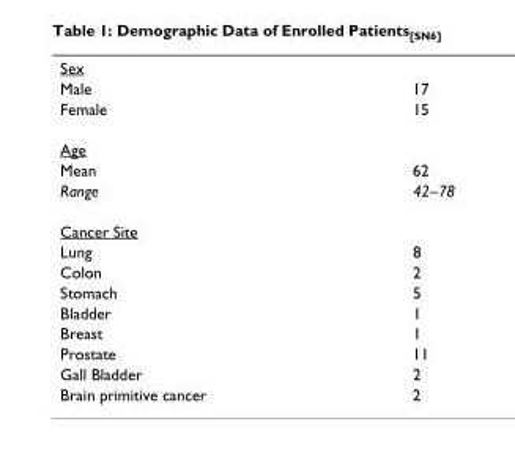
<table><tbody><tr><td colspan="2">Sex</td></tr><tr><td>Male</td><td>17</td></tr><tr><td>Female</td><td>15</td></tr><tr><td colspan="2">Age</td></tr><tr><td>Mean</td><td>62</td></tr><tr><td>Range</td><td>42–78</td></tr><tr><td colspan="2">Cancer Site</td></tr><tr><td>Lung</td><td>8</td></tr><tr><td>Colon</td><td>2</td></tr><tr><td>Stomach</td><td>5</td></tr><tr><td>Bladder</td><td>1</td></tr><tr><td>Breast</td><td>1</td></tr><tr><td>Prostate</td><td>11</td></tr><tr><td>Gall Bladder</td><td>2</td></tr><tr><td>Brain primitive cancer</td><td>2</td></tr></tbody></table>